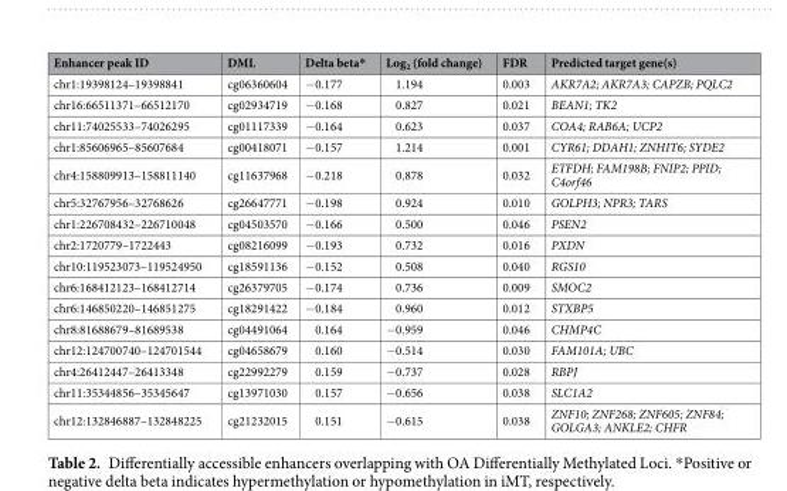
<table><thead><tr><td>Enhancer peak ID</td><td>DML</td><td>Delta beta*</td><td>Log<sub>2</sub> (fold change)</td><td>FDR</td><td>Predicted target gene(s)</td></tr></thead><tbody><tr><td>chr1:19398124–19398841</td><td>cg06360604</td><td>−0.177</td><td>1.194</td><td>0.003</td><td>AKR7A2; AKR7A3; CAPZB; PQLC2</td></tr><tr><td>chr16:66511371–66512170</td><td>cg02934719</td><td>−0.168</td><td>0.827</td><td>0.021</td><td>BEAN1; TK2</td></tr><tr><td>chr11:74025533–74026295</td><td>cg01117339</td><td>−0.164</td><td>0.623</td><td>0.037</td><td>COA4; RAB6A; UCP2</td></tr><tr><td>chr1:85606965–85607684</td><td>cg00418071</td><td>−0.157</td><td>1.214</td><td>0.001</td><td>CYR61; DDAH1; ZNHIT6; SYDE2</td></tr><tr><td>chr4:158809913–158811140</td><td>cg11637968</td><td>−0.218</td><td>0.878</td><td>0.032</td><td>ETFDH; FAM198B; FNIP2; PPID; C4orf46</td></tr><tr><td>chr5:32767956–32768626</td><td>cg26647771</td><td>−0.198</td><td>0.924</td><td>0.010</td><td>GOLPH3; NPR3; TARS</td></tr><tr><td>chr1:226708432–226710048</td><td>cg04503570</td><td>−0.166</td><td>0.500</td><td>0.046</td><td>PSEN2</td></tr><tr><td>chr2:1720779–1722443</td><td>cg08216099</td><td>−0.193</td><td>0.732</td><td>0.016</td><td>PXDN</td></tr><tr><td>chr10:119523073–119524950</td><td>cg18591136</td><td>−0.152</td><td>0.508</td><td>0.040</td><td>RGS10</td></tr><tr><td>chr6:168412123–168412714</td><td>cg26379705</td><td>−0.174</td><td>0.736</td><td>0.009</td><td>SMOC2</td></tr><tr><td>chr6:146850220–146851275</td><td>cg18291422</td><td>−0.184</td><td>0.960</td><td>0.012</td><td>STXBP5</td></tr><tr><td>chr8:81688679–81689538</td><td>cg04491064</td><td>0.164</td><td>−0.959</td><td>0.046</td><td>CHMP4C</td></tr><tr><td>chr12:124700740–124701544</td><td>cg04658679</td><td>0.160</td><td>−0.514</td><td>0.030</td><td>FAM101A; UBC</td></tr><tr><td>chr4:26412447–26413348</td><td>cg22992279</td><td>0.159</td><td>−0.737</td><td>0.028</td><td>RBPJ</td></tr><tr><td>chr11:35344856–35345647</td><td>cg13971030</td><td>0.157</td><td>−0.656</td><td>0.038</td><td>SLC1A2</td></tr><tr><td>chr12:132846887–132848225</td><td>cg21232015</td><td>0.151</td><td>−0.615</td><td>0.038</td><td>ZNF10; ZNF268; ZNF605; ZNF84; GOLGA3; ANKLE2; CHFR</td></tr></tbody></table>